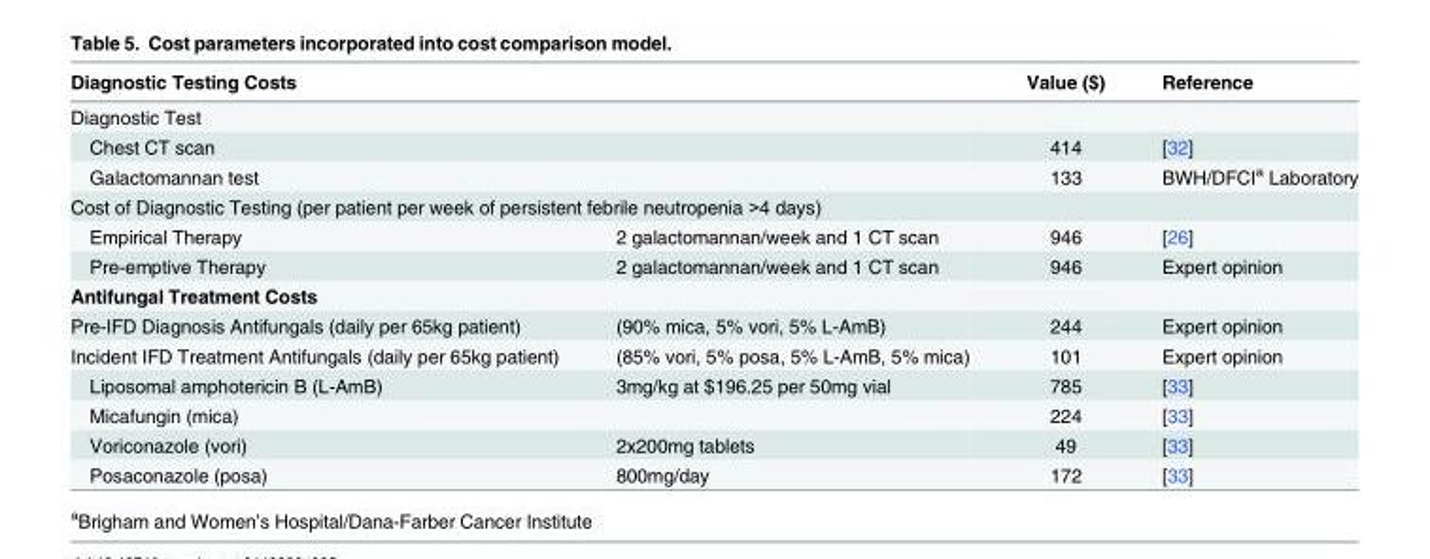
<table><thead><tr><td colspan="2">Diagnostic Testing Costs</td><td>Value ($)</td><td>Reference</td></tr></thead><tbody><tr><td colspan="4">Diagnostic Test</td></tr><tr><td colspan="2">Chest CT scan</td><td>414</td><td>[32]</td></tr><tr><td colspan="2">Galactomannan test</td><td>133</td><td>BWH/DFCI<sup>a</sup> Laboratory</td></tr><tr><td colspan="4">Cost of Diagnostic Testing (per patient per week of persistent febrile neutropenia &gt;4 days)</td></tr><tr><td>Empirical Therapy</td><td>2 galactomannan/week and 1 CT scan</td><td>946</td><td>[26]</td></tr><tr><td>Pre-emptive Therapy</td><td>2 galactomannan/week and 1 CT scan</td><td>946</td><td>Expert opinion</td></tr><tr><td colspan="4">Antifungal Treatment Costs</td></tr><tr><td>Pre-IFD Diagnosis Antifungals (daily per 65kg patient)</td><td>(90% mica, 5% vori, 5% L-AmB)</td><td>244</td><td>Expert opinion</td></tr><tr><td>Incident IFD Treatment Antifungals (daily per 65kg patient)</td><td>(85% vori, 5% posa, 5% L-AmB, 5% mica)</td><td>101</td><td>Expert opinion</td></tr><tr><td>Liposomal amphotericin B (L-AmB)</td><td>3mg/kg at $196.25 per 50mg vial</td><td>785</td><td>[33]</td></tr><tr><td>Micafungin (mica)</td><td></td><td>224</td><td>[33]</td></tr><tr><td>Voriconazole (vori)</td><td>2x200mg tablets</td><td>49</td><td>[33]</td></tr><tr><td>Posaconazole (posa)</td><td>800mg/day</td><td>172</td><td>[33]</td></tr></tbody></table>